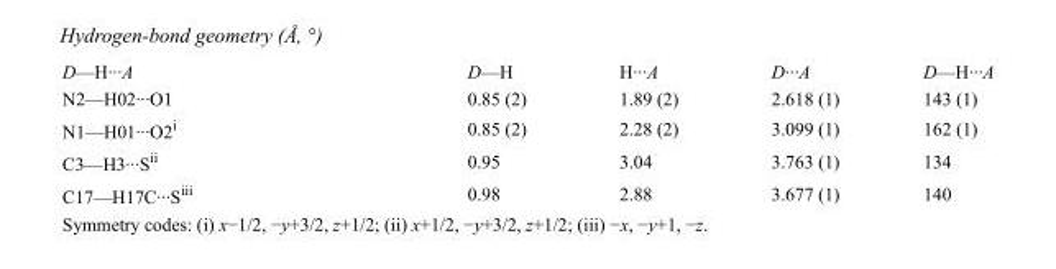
<table><tbody><tr><td>D—H···A</td><td>D—H</td><td>H···A</td><td>D···A</td><td>D—H···A</td></tr><tr><td>N2—H02···O1</td><td>0.85 (2)</td><td>1.89 (2)</td><td>2.618 (1)</td><td>143 (1)</td></tr><tr><td>N1—H01···O2<sup>i</sup></td><td>0.85 (2)</td><td>2.28 (2)</td><td>3.099 (1)</td><td>162 (1)</td></tr><tr><td>C3—H3···S<sup>ii</sup></td><td>0.95</td><td>3.04</td><td>3.763 (1)</td><td>134</td></tr><tr><td>C17—H17C···S<sup>iii</sup></td><td>0.98</td><td>2.88</td><td>3.677 (1)</td><td>140</td></tr></tbody></table>